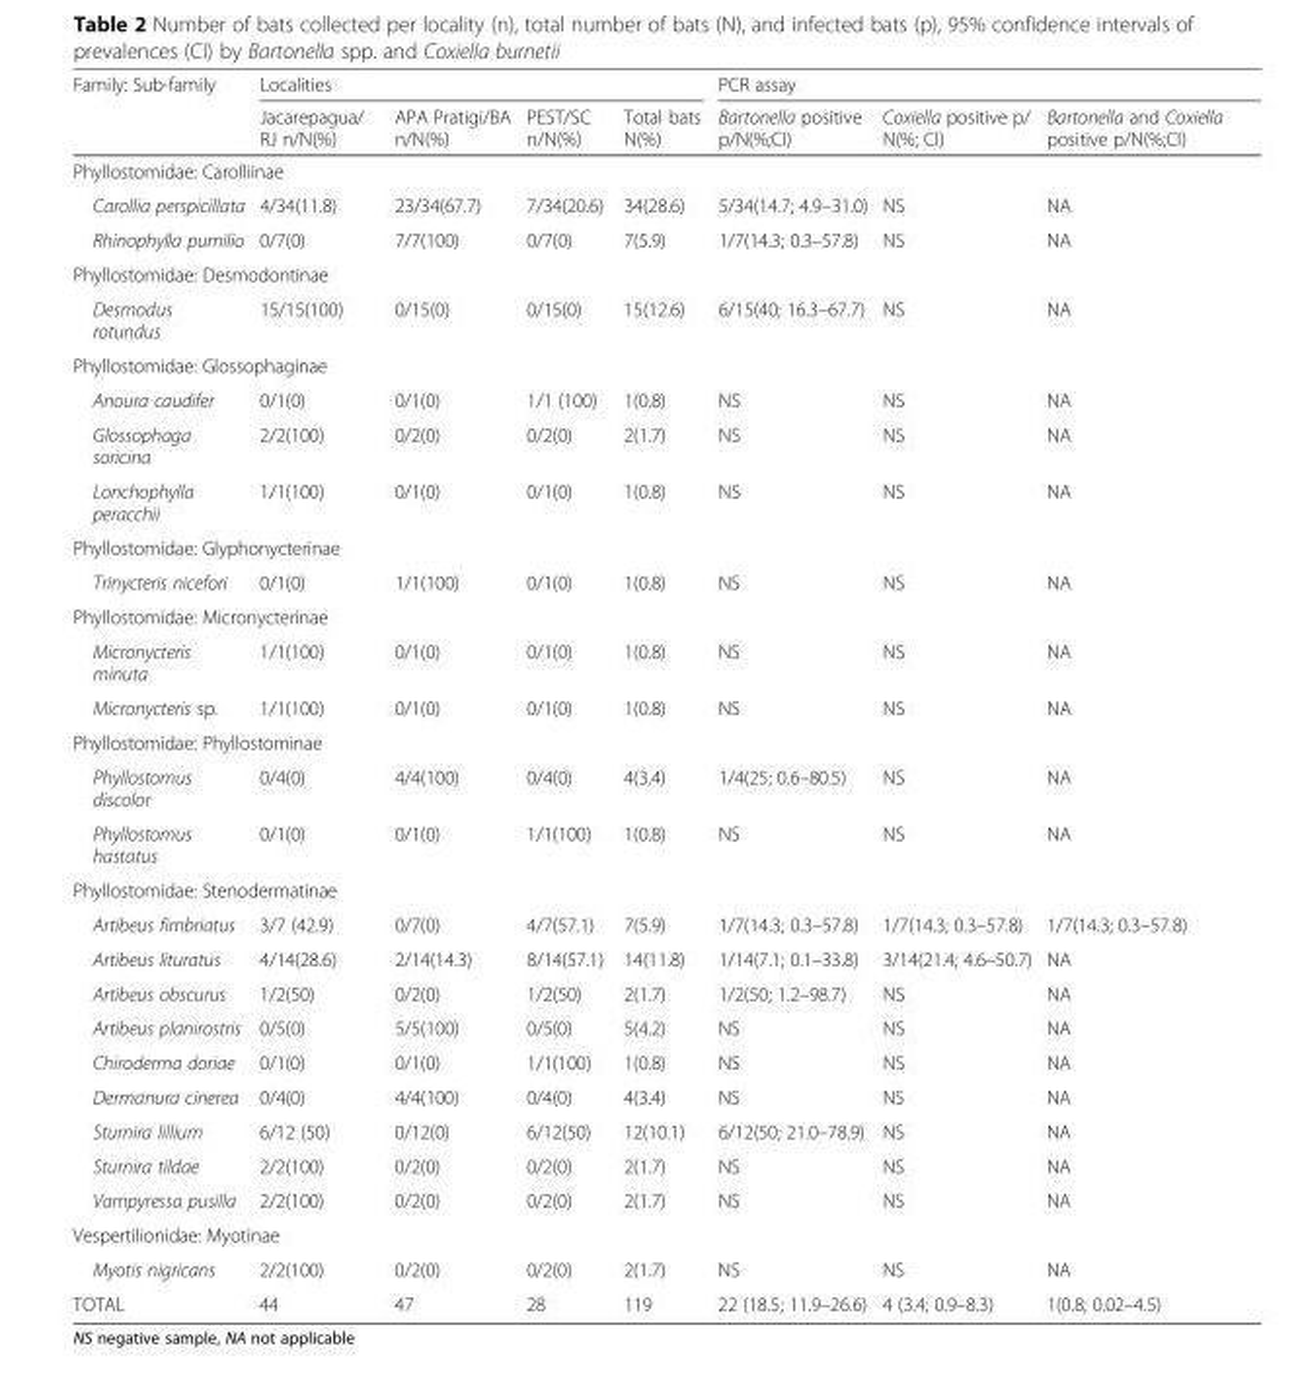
<table><thead><tr><td rowspan="2">Family: Sub-family</td><td colspan="4">Localities</td><td colspan="3">PCR assay</td></tr><tr><td>Jacarepagua/ RJ n/N(%)</td><td>APA Pratigi/BA n/N(%)</td><td>PEST/SC n/N(%)</td><td>Total bats N(%)</td><td>Bartonella positive p/N(%;CI)</td><td>Coxiella positive p/ N(%; CI)</td><td>Bartonella and Coxiella positive p/N(%;CI)</td></tr></thead><tbody><tr><td colspan="8">Phyllostomidae: Carolliinae</td></tr><tr><td>Carollia perspicillata</td><td>4/34(11.8)</td><td>23/34(67.7)</td><td>7/34(20.6)</td><td>34(28.6)</td><td>5/34(14.7; 4.9–31.0)</td><td>NS</td><td>NA</td></tr><tr><td>Rhinophylla pumilio</td><td>0/7(0)</td><td>7/7(100)</td><td>0/7(0)</td><td>7(5.9)</td><td>1/7(14.3; 0.3–57.8)</td><td>NS</td><td>NA</td></tr><tr><td colspan="8">Phyllostomidae: Desmodontinae</td></tr><tr><td>Desmodus rotundus</td><td>15/15(100)</td><td>0/15(0)</td><td>0/15(0)</td><td>15(12.6)</td><td>6/15(40; 16.3–67.7)</td><td>NS</td><td>NA</td></tr><tr><td colspan="8">Phyllostomidae: Glossophaginae</td></tr><tr><td>Anoura caudifer</td><td>0/1(0)</td><td>0/1(0)</td><td>1/1 (100)</td><td>1(0.8)</td><td>NS</td><td>NS</td><td>NA</td></tr><tr><td>Glossophaga soricina</td><td>2/2(100)</td><td>0/2(0)</td><td>0/2(0)</td><td>2(1.7)</td><td>NS</td><td>NS</td><td>NA</td></tr><tr><td>Lonchophylla peracchii</td><td>1/1(100)</td><td>0/1(0)</td><td>0/1(0)</td><td>1(0.8)</td><td>NS</td><td>NS</td><td>NA</td></tr><tr><td colspan="8">Phyllostomidae: Glyphonycterinae</td></tr><tr><td>Trinycteris nicefori</td><td>0/1(0)</td><td>1/1(100)</td><td>0/1(0)</td><td>1(0.8)</td><td>NS</td><td>NS</td><td>NA</td></tr><tr><td colspan="8">Phyllostomidae: Micronycterinae</td></tr><tr><td>Micronycteris minuta</td><td>1/1(100)</td><td>0/1(0)</td><td>0/1(0)</td><td>1(0.8)</td><td>NS</td><td>NS</td><td>NA</td></tr><tr><td>Micronycteris sp.</td><td>1/1(100)</td><td>0/1(0)</td><td>0/1(0)</td><td>1(0.8)</td><td>NS</td><td>NS</td><td>NA</td></tr><tr><td colspan="8">Phyllostomidae: Phyllostominae</td></tr><tr><td>Phyllostomus discolor</td><td>0/4(0)</td><td>4/4(100)</td><td>0/4(0)</td><td>4(3.4)</td><td>1/4(25; 0.6–80.5)</td><td>NS</td><td>NA</td></tr><tr><td>Phyllostomus hastatus</td><td>0/1(0)</td><td>0/1(0)</td><td>1/1(100)</td><td>1(0.8)</td><td>NS</td><td>NS</td><td>NA</td></tr><tr><td colspan="8">Phyllostomidae: Stenodermatinae</td></tr><tr><td>Artibeus fimbriatus</td><td>3/7 (42.9)</td><td>0/7(0)</td><td>4/7(57.1)</td><td>7(5.9)</td><td>1/7(14.3; 0.3–57.8)</td><td>1/7(14.3; 0.3–57.8)</td><td>1/7(14.3; 0.3–57.8)</td></tr><tr><td>Artibeus lituratus</td><td>4/14(28.6)</td><td>2/14(14.3)</td><td>8/14(57.1)</td><td>14(11.8)</td><td>1/14(7.1; 0.1–33.8)</td><td>3/14(21.4; 4.6–50.7)</td><td>NA</td></tr><tr><td>Artibeus obscurus</td><td>1/2(50)</td><td>0/2(0)</td><td>1/2(50)</td><td>2(1.7)</td><td>1/2(50; 1.2–98.7)</td><td>NS</td><td>NA</td></tr><tr><td>Artibeus planirostris</td><td>0/5(0)</td><td>5/5(100)</td><td>0/5(0)</td><td>5(4.2)</td><td>NS</td><td>NS</td><td>NA</td></tr><tr><td>Chiroderma doriae</td><td>0/1(0)</td><td>0/1(0)</td><td>1/1(100)</td><td>1(0.8)</td><td>NS</td><td>NS</td><td>NA</td></tr><tr><td>Dermanura cinerea</td><td>0/4(0)</td><td>4/4(100)</td><td>0/4(0)</td><td>4(3.4)</td><td>NS</td><td>NS</td><td>NA</td></tr><tr><td>Sturnira lillium</td><td>6/12 (50)</td><td>0/12(0)</td><td>6/12(50)</td><td>12(10.1)</td><td>6/12(50; 21.0–78.9)</td><td>NS</td><td>NA</td></tr><tr><td>Sturnira tildae</td><td>2/2(100)</td><td>0/2(0)</td><td>0/2(0)</td><td>2(1.7)</td><td>NS</td><td>NS</td><td>NA</td></tr><tr><td>Vampyressa pusilla</td><td>2/2(100)</td><td>0/2(0)</td><td>0/2(0)</td><td>2(1.7)</td><td>NS</td><td>NS</td><td>NA</td></tr><tr><td colspan="8">Vespertilionidae: Myotinae</td></tr><tr><td>Myotis nigricans</td><td>2/2(100)</td><td>0/2(0)</td><td>0/2(0)</td><td>2(1.7)</td><td>NS</td><td>NS</td><td>NA</td></tr><tr><td>TOTAL</td><td>44</td><td>47</td><td>28</td><td>119</td><td>22 (18.5; 11.9–26.6)</td><td>4 (3.4; 0.9–8.3)</td><td>1(0.8; 0.02–4.5)</td></tr></tbody></table>